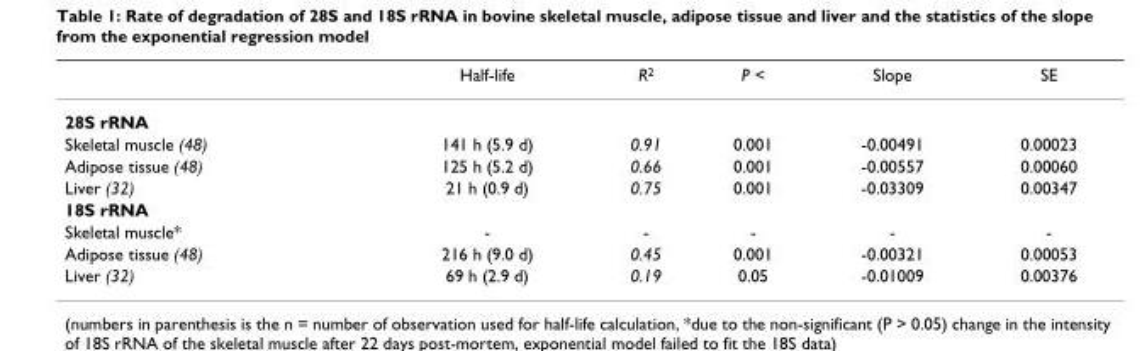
<table><thead><tr><td></td><td>Half-life</td><td>R<sup>2</sup></td><td>P &lt;</td><td>Slope</td><td>SE</td></tr></thead><tbody><tr><td colspan="6">28S rRNA</td></tr><tr><td>Skeletal muscle (48)</td><td>141 h (5.9 d)</td><td>0.91</td><td>0.001</td><td>-0.00491</td><td>0.00023</td></tr><tr><td>Adipose tissue (48)</td><td>125 h (5.2 d)</td><td>0.66</td><td>0.001</td><td>-0.00557</td><td>0.00060</td></tr><tr><td>Liver (32)</td><td>21 h (0.9 d)</td><td>0.75</td><td>0.001</td><td>-0.03309</td><td>0.00347</td></tr><tr><td colspan="6">18S rRNA</td></tr><tr><td>Skeletal muscle*</td><td>-</td><td>-</td><td>-</td><td>-</td><td>-</td></tr><tr><td>Adipose tissue (48)</td><td>216 h (9.0 d)</td><td>0.45</td><td>0.001</td><td>-0.00321</td><td>0.00053</td></tr><tr><td>Liver (32)</td><td>69 h (2.9 d)</td><td>0.19</td><td>0.05</td><td>-0.01009</td><td>0.00376</td></tr></tbody></table>